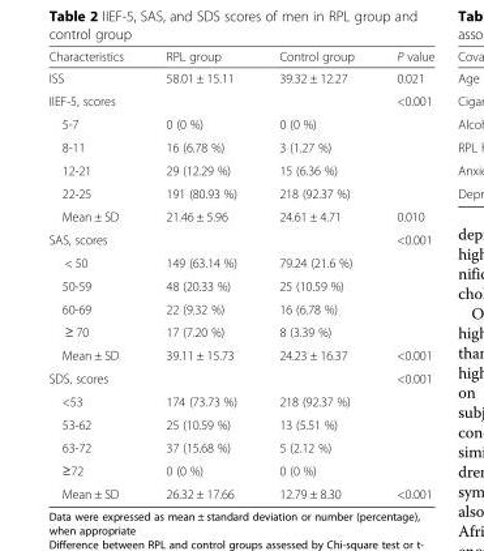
<table><thead><tr><td>Characteristics</td><td>RPL group</td><td>Control group</td><td>P value</td></tr></thead><tbody><tr><td>ISS</td><td>58.01 ± 15.11</td><td>39.32 ± 12.27</td><td>0.021</td></tr><tr><td>IIEF-5, scores</td><td></td><td></td><td>&lt;0.001</td></tr><tr><td>5-7</td><td>0 (0 %)</td><td>0 (0 %)</td><td></td></tr><tr><td>8-11</td><td>16 (6.78 %)</td><td>3 (1.27 %)</td><td></td></tr><tr><td>12-21</td><td>29 (12.29 %)</td><td>15 (6.36 %)</td><td></td></tr><tr><td>22-25</td><td>191 (80.93 %)</td><td>218 (92.37 %)</td><td></td></tr><tr><td>Mean ± SD</td><td>21.46 ± 5.96</td><td>24.61 ± 4.71</td><td>0.010</td></tr><tr><td>SAS, scores</td><td></td><td></td><td>&lt;0.001</td></tr><tr><td>&lt; 50</td><td>149 (63.14 %)</td><td>79.24 (21.6 %)</td><td></td></tr><tr><td>50-59</td><td>48 (20.33 %)</td><td>25 (10.59 %)</td><td></td></tr><tr><td>60-69</td><td>22 (9.32 %)</td><td>16 (6.78 %)</td><td></td></tr><tr><td>≥ 70</td><td>17 (7.20 %)</td><td>8 (3.39 %)</td><td></td></tr><tr><td>Mean ± SD</td><td>39.11 ± 15.73</td><td>24.23 ± 16.37</td><td>&lt;0.001</td></tr><tr><td>SDS, scores</td><td></td><td></td><td>&lt;0.001</td></tr><tr><td>&lt;53</td><td>174 (73.73 %)</td><td>218 (92.37 %)</td><td></td></tr><tr><td>53-62</td><td>25 (10.59 %)</td><td>13 (5.51 %)</td><td></td></tr><tr><td>63-72</td><td>37 (15.68 %)</td><td>5 (2.12 %)</td><td></td></tr><tr><td>≥72</td><td>0 (0 %)</td><td>0 (0 %)</td><td></td></tr><tr><td>Mean ± SD</td><td>26.32 ± 17.66</td><td>12.79 ± 8.30</td><td>&lt;0.001</td></tr></tbody></table>